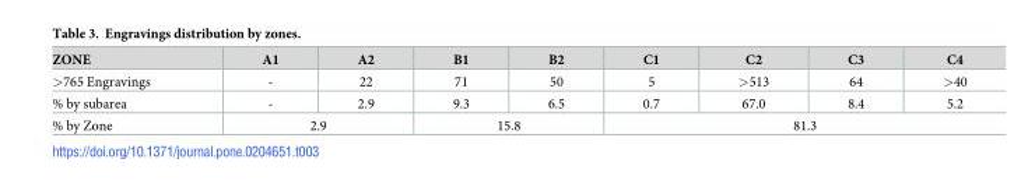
<table><thead><tr><td>ZONE</td><td>A1</td><td>A2</td><td>B1</td><td>B2</td><td>C1</td><td>C2</td><td>C3</td><td>C4</td></tr></thead><tbody><tr><td>&gt;765 Engravings</td><td>-</td><td>22</td><td>71</td><td>50</td><td>5</td><td>&gt;513</td><td>64</td><td>&gt;40</td></tr><tr><td>% by subarea</td><td>-</td><td>2.9</td><td>9.3</td><td>6.5</td><td>0.7</td><td>67.0</td><td>8.4</td><td>5.2</td></tr><tr><td>% by Zone</td><td colspan="2">2.9</td><td colspan="2">15.8</td><td colspan="4">81.3</td></tr></tbody></table>